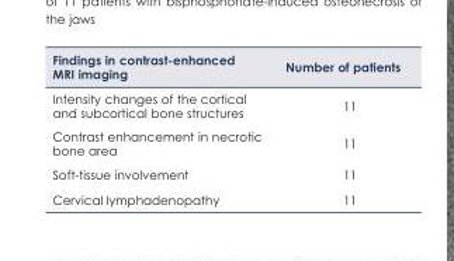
<table><thead><tr><td>Findings in contrast-enhanced MRI imaging</td><td>Number of patients</td></tr></thead><tbody><tr><td>Intensity changes of the cortical and subcortical bone structures</td><td>11</td></tr><tr><td>Contrast enhancement in necrotic bone area</td><td>11</td></tr><tr><td>Soft-tissue involvement</td><td>11</td></tr><tr><td>Cervical lymphadenopathy</td><td>11</td></tr></tbody></table>